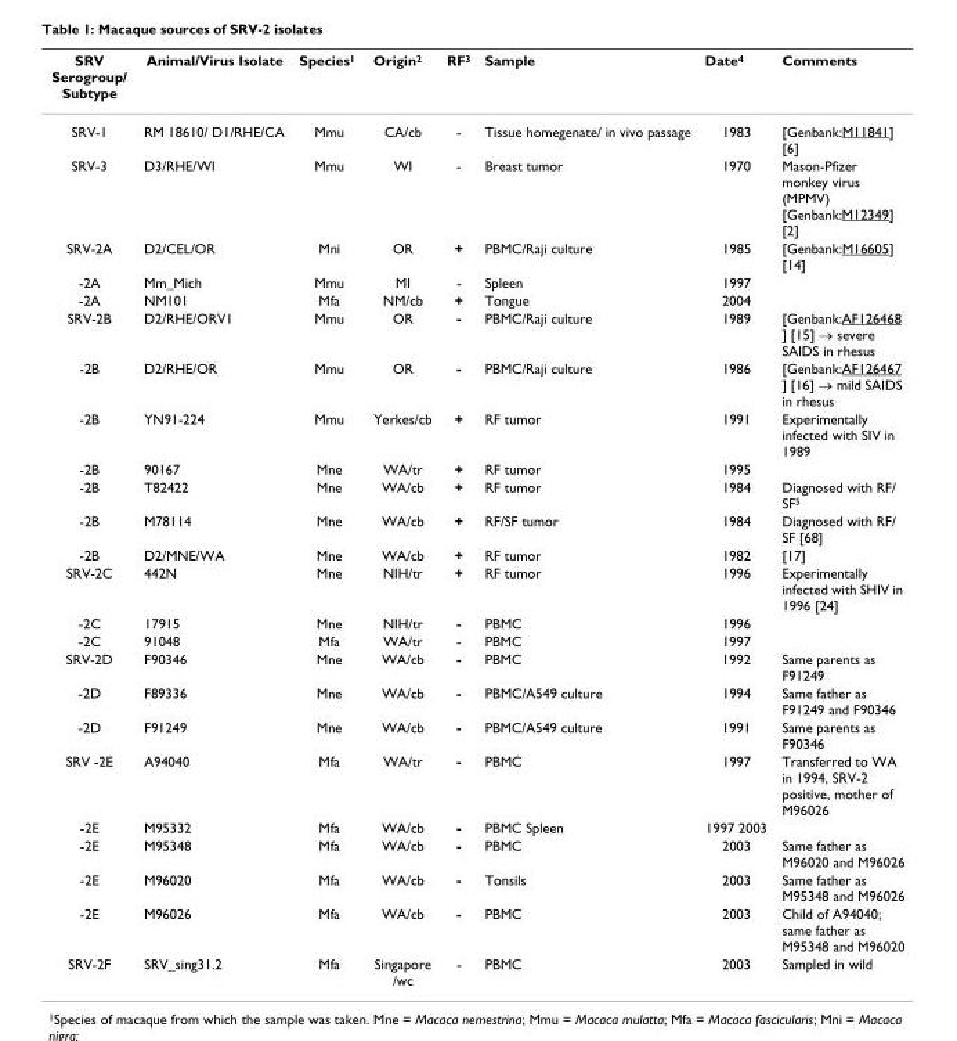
<table><thead><tr><td>SRV Serogroup/ Subtype</td><td>Animal/Virus Isolate</td><td>Species1</td><td>Origin2</td><td>RF3</td><td>Sample</td><td>Date4</td><td>Comments</td></tr></thead><tbody><tr><td>SRV-1</td><td>RM 18610/ D1/RHE/CA</td><td>Mmu</td><td>CA/cb</td><td>-</td><td>Tissue homegenate/ in vivo passage</td><td>1983</td><td>[Genbank:M11841] [6]</td></tr><tr><td>SRV-3</td><td>D3/RHE/WI</td><td>Mmu</td><td>WI</td><td>-</td><td>Breast tumor</td><td>1970</td><td>Mason-Pfizer monkey virus (MPMV) [Genbank:M12349] [2]</td></tr><tr><td>SRV-2A</td><td>D2/CEL/OR</td><td>Mni</td><td>OR</td><td>+</td><td>PBMC/Raji culture</td><td>1985</td><td>[Genbank:M16605] [14]</td></tr><tr><td>-2A</td><td>Mm_Mich</td><td>Mmu</td><td>MI</td><td>-</td><td>Spleen</td><td>1997</td><td></td></tr><tr><td>-2A</td><td>NM101</td><td>Mfa</td><td>NM/cb</td><td>+</td><td>Tongue</td><td>2004</td><td></td></tr><tr><td>SRV-2B</td><td>D2/RHE/ORV1</td><td>Mmu</td><td>OR</td><td>-</td><td>PBMC/Raji culture</td><td>1989</td><td>[Genbank:AF126468 ] [15] → severe SAIDS in rhesus</td></tr><tr><td>-2B</td><td>D2/RHE/OR</td><td>Mmu</td><td>OR</td><td>-</td><td>PBMC/Raji culture</td><td>1986</td><td>[Genbank:AF126467 ] [16] → mild SAIDS in rhesus</td></tr><tr><td>-2B</td><td>YN91-224</td><td>Mmu</td><td>Yerkes/cb</td><td>+</td><td>RF tumor</td><td>1991</td><td>Experimentally infected with SIV in 1989</td></tr><tr><td>-2B</td><td>90167</td><td>Mne</td><td>WA/tr</td><td>+</td><td>RF tumor</td><td>1995</td><td></td></tr><tr><td>-2B</td><td>T82422</td><td>Mne</td><td>WA/cb</td><td>+</td><td>RF tumor</td><td>1984</td><td>Diagnosed with RF/ SF5</td></tr><tr><td>-2B</td><td>M78114</td><td>Mne</td><td>WA/cb</td><td>+</td><td>RF/SF tumor</td><td>1984</td><td>Diagnosed with RF/ SF [68]</td></tr><tr><td>-2B</td><td>D2/MNE/WA</td><td>Mne</td><td>WA/cb</td><td>+</td><td>RF tumor</td><td>1982</td><td>[17]</td></tr><tr><td>SRV-2C</td><td>442N</td><td>Mne</td><td>NIH/tr</td><td>+</td><td>RF tumor</td><td>1996</td><td>Experimentally infected with SHIV in 1996 [24]</td></tr><tr><td>-2C</td><td>17915</td><td>Mne</td><td>NIH/tr</td><td>-</td><td>PBMC</td><td>1996</td><td></td></tr><tr><td>-2C</td><td>91048</td><td>Mfa</td><td>WA/tr</td><td>-</td><td>PBMC</td><td>1997</td><td></td></tr><tr><td>SRV-2D</td><td>F90346</td><td>Mne</td><td>WA/cb</td><td>-</td><td>PBMC</td><td>1992</td><td>Same parents as F91249</td></tr><tr><td>-2D</td><td>F89336</td><td>Mne</td><td>WA/cb</td><td>-</td><td>PBMC/A549 culture</td><td>1994</td><td>Same father as F91249 and F90346</td></tr><tr><td>-2D</td><td>F91249</td><td>Mne</td><td>WA/cb</td><td>-</td><td>PBMC/A549 culture</td><td>1991</td><td>Same parents as F90346</td></tr><tr><td>SRV -2E</td><td>A94040</td><td>Mfa</td><td>WA/tr</td><td>-</td><td>PBMC</td><td>1997</td><td>Transferred to WA in 1994, SRV-2 positive, mother of M96026</td></tr><tr><td>-2E</td><td>M95332</td><td>Mfa</td><td>WA/cb</td><td>-</td><td>PBMC Spleen</td><td>1997 2003</td><td></td></tr><tr><td>-2E</td><td>M95348</td><td>Mfa</td><td>WA/cb</td><td>-</td><td>PBMC</td><td>2003</td><td>Same father as M96020 and M96026</td></tr><tr><td>-2E</td><td>M96020</td><td>Mfa</td><td>WA/cb</td><td>-</td><td>Tonsils</td><td>2003</td><td>Same father as M95348 and M96026</td></tr><tr><td>-2E</td><td>M96026</td><td>Mfa</td><td>WA/cb</td><td>-</td><td>PBMC</td><td>2003</td><td>Child of A94040; same father as M95348 and M96020</td></tr><tr><td>SRV-2F</td><td>SRV_sing31.2</td><td>Mfa</td><td>Singapore /wc</td><td>-</td><td>PBMC</td><td>2003</td><td>Sampled in wild</td></tr></tbody></table>